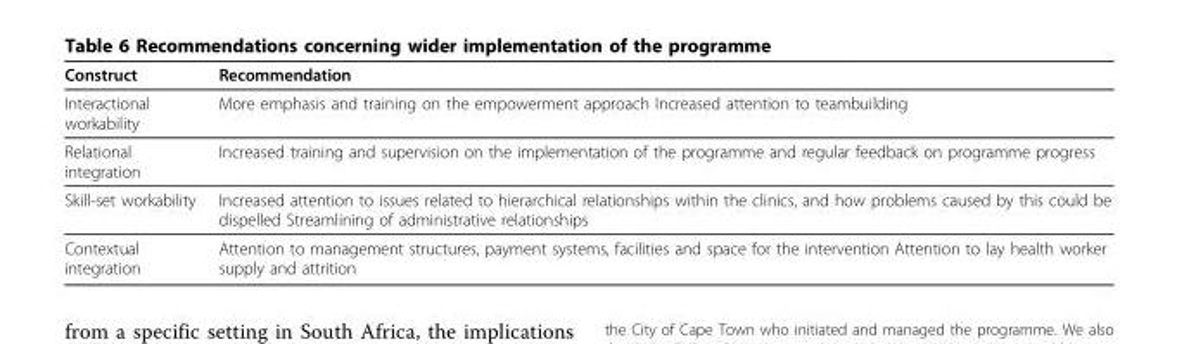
<table><thead><tr><td>Construct</td><td>Recommendation</td></tr></thead><tbody><tr><td>Interactional workability</td><td>More emphasis and training on the empowerment approach Increased attention to teambuilding</td></tr><tr><td>Relational integration</td><td>Increased training and supervision on the implementation of the programme and regular feedback on programme progress</td></tr><tr><td>Skill-set workability</td><td>Increased attention to issues related to hierarchical relationships within the clinics, and how problems caused by this could be dispelled Streamlining of administrative relationships</td></tr><tr><td>Contextual integration</td><td>Attention to management structures, payment systems, facilities and space for the intervention Attention to lay health worker supply and attrition</td></tr></tbody></table>